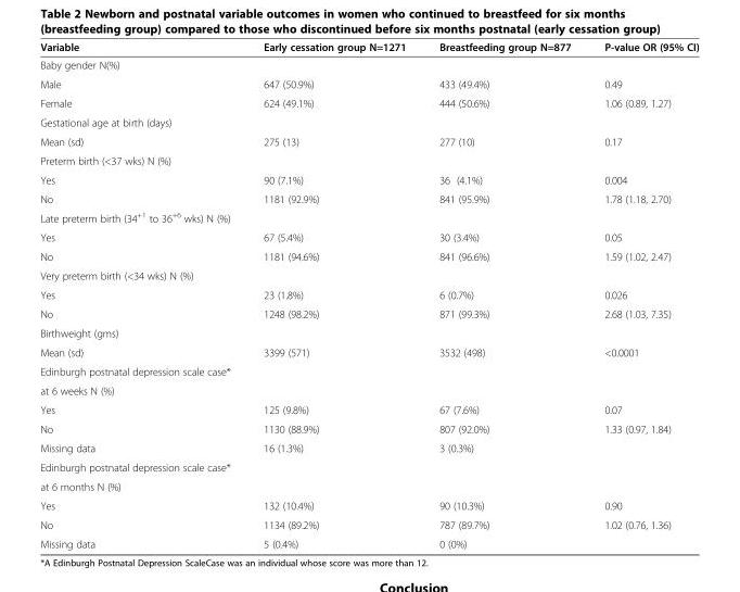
<table><thead><tr><td>Variable</td><td>Early cessation group N=1271</td><td>Breastfeeding group N=877</td><td>P-value OR (95% CI)</td></tr></thead><tbody><tr><td colspan="4">Baby gender N(%)</td></tr><tr><td>Male</td><td>647 (50.9%)</td><td>433 (49.4%)</td><td>0.49</td></tr><tr><td>Female</td><td>624 (49.1%)</td><td>444 (50.6%)</td><td>1.06 (0.89, 1.27)</td></tr><tr><td colspan="4">Gestational age at birth (days)</td></tr><tr><td>Mean (sd)</td><td>275 (13)</td><td>277 (10)</td><td>0.17</td></tr><tr><td colspan="4">Preterm birth (&lt;37 wks) N (%)</td></tr><tr><td>Yes</td><td>90 (7.1%)</td><td>36 (4.1%)</td><td>0.004</td></tr><tr><td>No</td><td>1181 (92.9%)</td><td>841 (95.9%)</td><td>1.78 (1.18, 2.70)</td></tr><tr><td colspan="4">Late preterm birth (34<sup>+1</sup> to 36<sup>+6</sup> wks) N (%)</td></tr><tr><td>Yes</td><td>67 (5.4%)</td><td>30 (3.4%)</td><td>0.05</td></tr><tr><td>No</td><td>1181 (94.6%)</td><td>841 (96.6%)</td><td>1.59 (1.02, 2.47)</td></tr><tr><td colspan="4">Very preterm birth (&lt;34 wks) N (%)</td></tr><tr><td>Yes</td><td>23 (1.8%)</td><td>6 (0.7%)</td><td>0.026</td></tr><tr><td>No</td><td>1248 (98.2%)</td><td>871 (99.3%)</td><td>2.68 (1.03, 7.35)</td></tr><tr><td colspan="4">Birthweight (gms)</td></tr><tr><td>Mean (sd)</td><td>3399 (571)</td><td>3532 (498)</td><td>&lt;0.0001</td></tr><tr><td colspan="4">Edinburgh postnatal depression scale case*</td></tr><tr><td colspan="4">at 6 weeks N (%)</td></tr><tr><td>Yes</td><td>125 (9.8%)</td><td>67 (7.6%)</td><td>0.07</td></tr><tr><td>No</td><td>1130 (88.9%)</td><td>807 (92.0%)</td><td>1.33 (0.97, 1.84)</td></tr><tr><td>Missing data</td><td>16 (1.3%)</td><td>3 (0.3%)</td><td></td></tr><tr><td colspan="4">Edinburgh postnatal depression scale case*</td></tr><tr><td colspan="4">at 6 months N (%)</td></tr><tr><td>Yes</td><td>132 (10.4%)</td><td>90 (10.3%)</td><td>0.90</td></tr><tr><td>No</td><td>1134 (89.2%)</td><td>787 (89.7%)</td><td>1.02 (0.76, 1.36)</td></tr><tr><td>Missing data</td><td>5 (0.4%)</td><td>0 (0%)</td><td></td></tr></tbody></table>